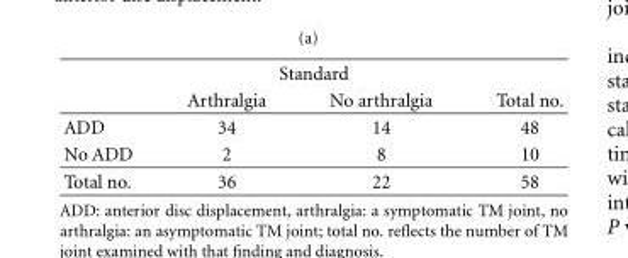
<table><thead><tr><td colspan="4">Standard</td></tr><tr><td></td><td>Arthralgia</td><td>No arthralgia</td><td>Total no.</td></tr></thead><tbody><tr><td>ADD</td><td>34</td><td>14</td><td>48</td></tr><tr><td>No ADD</td><td>2</td><td>8</td><td>10</td></tr><tr><td>Total no.</td><td>36</td><td>22</td><td>58</td></tr></tbody></table>